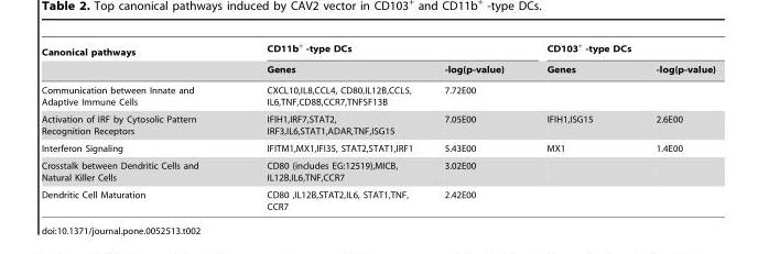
<table><thead><tr><td rowspan="2">Canonical pathways</td><td colspan="2">CD11b<sup>+</sup> -type DCs</td><td colspan="2">CD103<sup>+</sup> -type DCs</td></tr><tr><td>Genes</td><td>-log(p-value)</td><td>Genes</td><td>-log(p-value)</td></tr></thead><tbody><tr><td>Communication between Innate and Adaptive Immune Cells</td><td>CXCL10,IL8,CCL4, CD80,IL12B,CCL5, IL6,TNF,CD8B,CCR7,TNFSF13B</td><td>7.72E00</td><td></td><td></td></tr><tr><td>Activation of IRF by Cytosolic Pattern Recognition Receptors</td><td>IFIH1,IRF7,STAT2, IRF3,IL6,STAT1,ADAR,TNF,ISG15</td><td>7.05E00</td><td>IFIH1,ISG15</td><td>2.6E00</td></tr><tr><td>Interferon Signaling</td><td>IFITM1,MX1,IFI35, STAT2,STAT1,IRF1</td><td>5.43E00</td><td>MX1</td><td>1.4E00</td></tr><tr><td>Crosstalk between Dendritic Cells and Natural Killer Cells</td><td>CD80 (includes EG:12519),MICB, IL12B,IL6,TNF,CCR7</td><td>3.02E00</td><td></td><td></td></tr><tr><td>Dendritic Cell Maturation</td><td>CD80 ,IL12B,STAT2,IL6, STAT1,TNF, CCR7</td><td>2.42E00</td><td></td><td></td></tr></tbody></table>